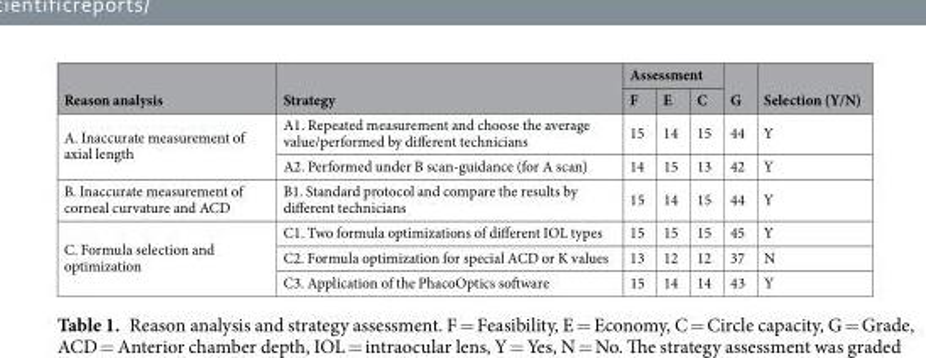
<table><thead><tr><td rowspan="2">Reason analysis</td><td rowspan="2">Strategy</td><td colspan="3">Assessment</td><td rowspan="2">G</td><td rowspan="2">Selection (Y/N)</td></tr><tr><td>F</td><td>E</td><td>C</td></tr></thead><tbody><tr><td rowspan="2">A. Inaccurate measurement of axial length</td><td>A1. Repeated measurement and choose the average value/performed by different technicians</td><td>15</td><td>14</td><td>15</td><td>44</td><td>Y</td></tr><tr><td>A2. Performed under B scan-guidance (for A scan)</td><td>14</td><td>15</td><td>13</td><td>42</td><td>Y</td></tr><tr><td>B. Inaccurate measurement of corneal curvature and ACD</td><td>B1. Standard protocol and compare the results by different technicians</td><td>15</td><td>14</td><td>15</td><td>44</td><td>Y</td></tr><tr><td rowspan="3">C. Formula selection and optimization</td><td>C1. Two formula optimizations of different IOL types</td><td>15</td><td>15</td><td>15</td><td>45</td><td>Y</td></tr><tr><td>C2. Formula optimization for special ACD or K values</td><td>13</td><td>12</td><td>12</td><td>37</td><td>N</td></tr><tr><td>C3. Application of the PhacoOptics software</td><td>15</td><td>14</td><td>14</td><td>43</td><td>Y</td></tr></tbody></table>